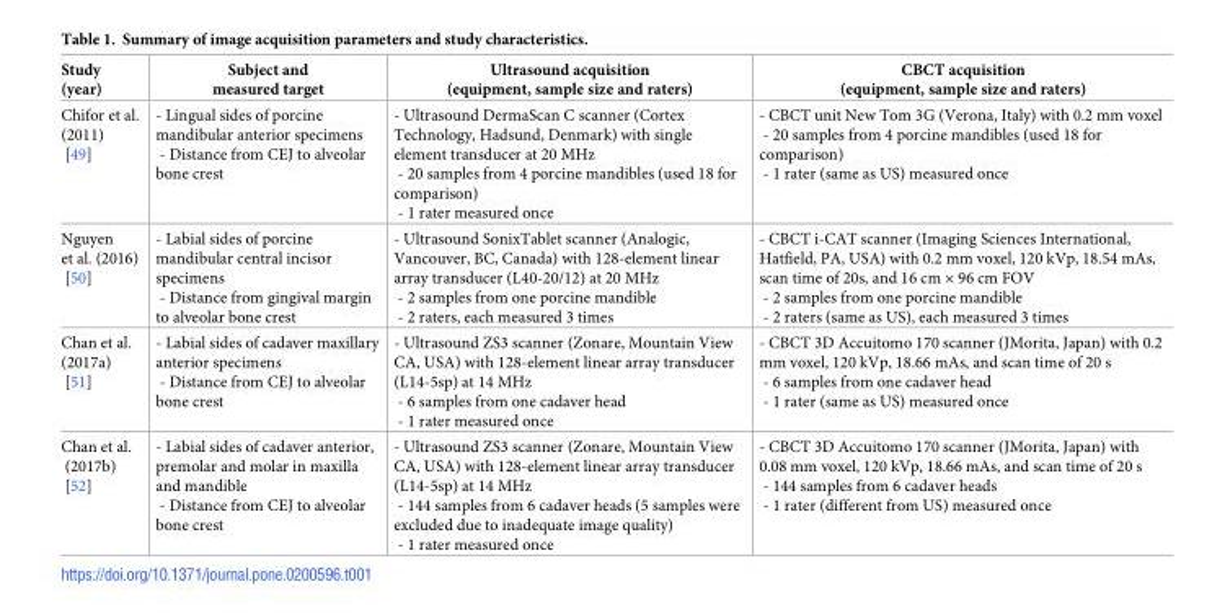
<table><thead><tr><td>Study (year)</td><td>Subject and measured target</td><td>Ultrasound acquisition (equipment, sample size and raters)</td><td>CBCT acquisition (equipment, sample size and raters)</td></tr></thead><tbody><tr><td>Chifor et al. (2011) [49]</td><td>- Lingual sides of porcine mandibular anterior specimens - Distance from CEJ to alveolar bone crest</td><td>- Ultrasound DermaScan C scanner (Cortex Technology, Hadsund, Denmark) with single element transducer at 20 MHz - 20 samples from 4 porcine mandibles (used 18 for comparison) - 1 rater measured once</td><td>- CBCT unit New Tom 3G (Verona, Italy) with 0.2 mm voxel - 20 samples from 4 porcine mandibles (used 18 for comparison) - 1 rater (same as US) measured once</td></tr><tr><td>Nguyen et al. (2016) [50]</td><td>- Labial sides of porcine mandibular central incisor specimens - Distance from gingival margin to alveolar bone crest</td><td>- Ultrasound SonixTablet scanner (Analogic, Vancouver, BC, Canada) with 128-element linear array transducer (L40-20/12) at 20 MHz - 2 samples from one porcine mandible - 2 raters, each measured 3 times</td><td>- CBCT i-CAT scanner (Imaging Sciences International, Hatfield, PA, USA) with 0.2 mm voxel, 120 kVp, 18.54 mAs, scan time of 20s, and 16 cm × 96 cm FOV - 2 samples from one porcine mandible - 2 raters (same as US), each measured 3 times</td></tr><tr><td>Chan et al. (2017a) [51]</td><td>- Labial sides of cadaver maxillary anterior specimens - Distance from CEJ to alveolar bone crest</td><td>- Ultrasound ZS3 scanner (Zonare, Mountain View CA, USA) with 128-element linear array transducer (L14-5sp) at 14 MHz - 6 samples from one cadaver head - 1 rater measured once</td><td>- CBCT 3D Accuitomo 170 scanner (JMorita, Japan) with 0.2 mm voxel, 120 kVp, 18.66 mAs, and scan time of 20 s - 6 samples from one cadaver head - 1 rater (same as US) measured once</td></tr><tr><td>Chan et al. (2017b) [52]</td><td>- Labial sides of cadaver anterior, premolar and molar in maxilla and mandible - Distance from CEJ to alveolar bone crest</td><td>- Ultrasound ZS3 scanner (Zonare, Mountain View CA, USA) with 128-element linear array transducer (L14-5sp) at 14 MHz - 144 samples from 6 cadaver heads (5 samples were excluded due to inadequate image quality) - 1 rater measured once</td><td>- CBCT 3D Accuitomo 170 scanner (JMorita, Japan) with 0.08 mm voxel, 120 kVp, 18.66 mAs, and scan time of 20 s - 144 samples from 6 cadaver heads - 1 rater (different from US) measured once</td></tr></tbody></table>